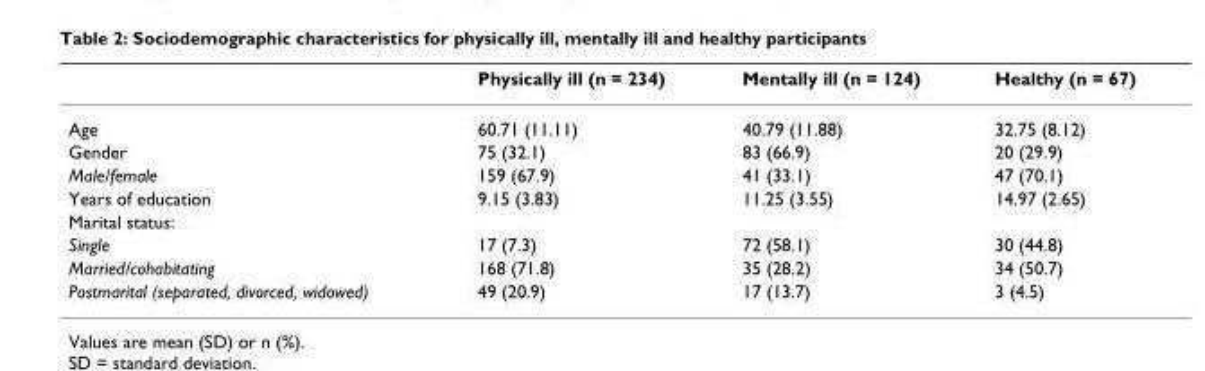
<table><thead><tr><td></td><td>Physically ill (n = 234)</td><td>Mentally ill (n = 124)</td><td>Healthy (n = 67)</td></tr></thead><tbody><tr><td>Age</td><td>60.71 (11.11)</td><td>40.79 (11.88)</td><td>32.75 (8.12)</td></tr><tr><td>Gender</td><td>75 (32.1)</td><td>83 (66.9)</td><td>20 (29.9)</td></tr><tr><td>Male/female</td><td>159 (67.9)</td><td>41 (33.1)</td><td>47 (70.1)</td></tr><tr><td>Years of education</td><td>9.15 (3.83)</td><td>11.25 (3.55)</td><td>14.97 (2.65)</td></tr><tr><td colspan="4">Marital status:</td></tr><tr><td>Single</td><td>17 (7.3)</td><td>72 (58.1)</td><td>30 (44.8)</td></tr><tr><td>Married/cohabitating</td><td>168 (71.8)</td><td>35 (28.2)</td><td>34 (50.7)</td></tr><tr><td>Postmarital (separated, divorced, widowed)</td><td>49 (20.9)</td><td>17 (13.7)</td><td>3 (4.5)</td></tr></tbody></table>